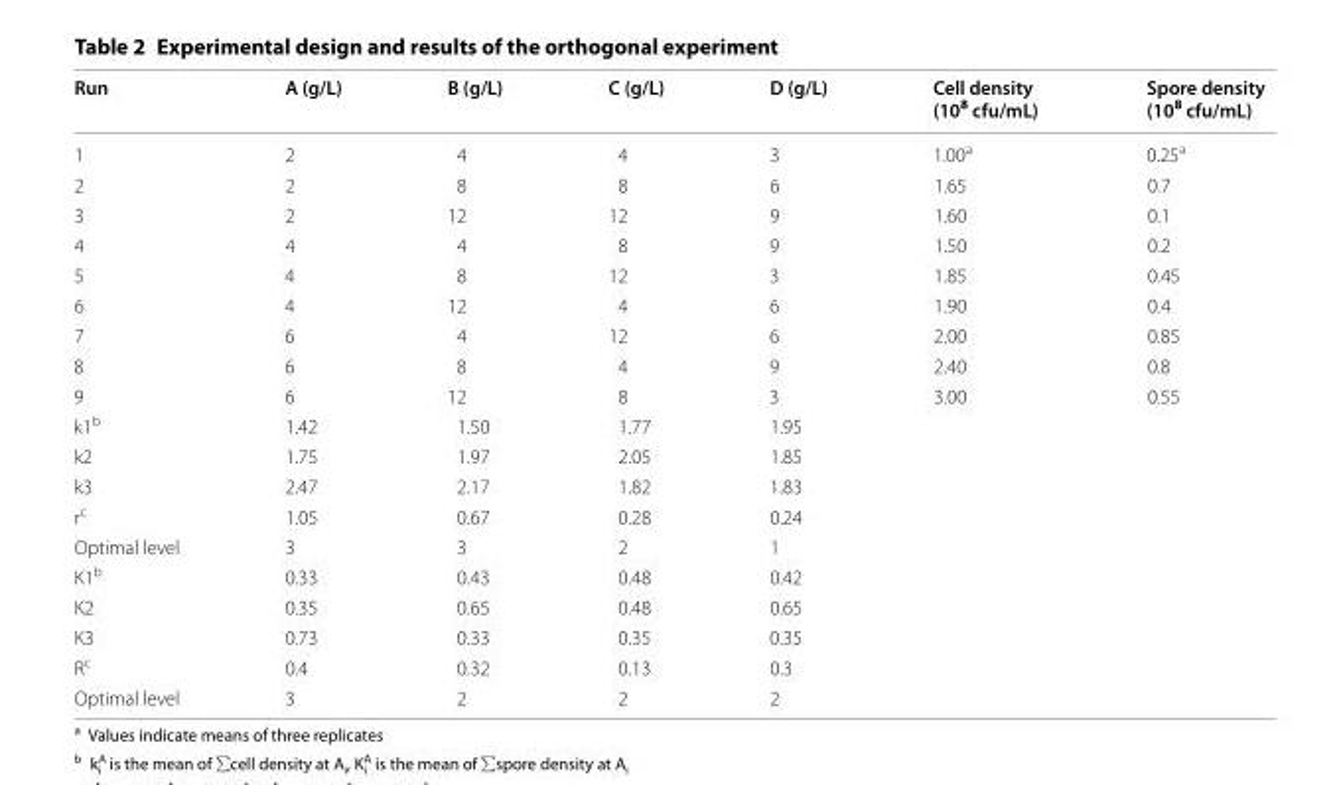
<table><thead><tr><td>Run</td><td>A (g/L)</td><td>B (g/L)</td><td>C (g/L)</td><td>D (g/L)</td><td>Cell density (10<sup>8</sup> cfu/mL)</td><td>Spore density (10<sup>8</sup> cfu/mL)</td></tr></thead><tbody><tr><td>1</td><td>2</td><td>4</td><td>4</td><td>3</td><td>1.00<sup>a</sup></td><td>0.25<sup>a</sup></td></tr><tr><td>2</td><td>2</td><td>8</td><td>8</td><td>6</td><td>1.65</td><td>0.7</td></tr><tr><td>3</td><td>2</td><td>12</td><td>12</td><td>9</td><td>1.60</td><td>0.1</td></tr><tr><td>4</td><td>4</td><td>4</td><td>8</td><td>9</td><td>1.50</td><td>0.2</td></tr><tr><td>5</td><td>4</td><td>8</td><td>12</td><td>3</td><td>1.85</td><td>0.45</td></tr><tr><td>6</td><td>4</td><td>12</td><td>4</td><td>6</td><td>1.90</td><td>0.4</td></tr><tr><td>7</td><td>6</td><td>4</td><td>12</td><td>6</td><td>2.00</td><td>0.85</td></tr><tr><td>8</td><td>6</td><td>8</td><td>4</td><td>9</td><td>2.40</td><td>0.8</td></tr><tr><td>9</td><td>6</td><td>12</td><td>8</td><td>3</td><td>3.00</td><td>0.55</td></tr><tr><td>k1<sup>b</sup></td><td>1.42</td><td>1.50</td><td>1.77</td><td>1.95</td><td></td><td></td></tr><tr><td>k2</td><td>1.75</td><td>1.97</td><td>2.05</td><td>1.85</td><td></td><td></td></tr><tr><td>k3</td><td>2.47</td><td>2.17</td><td>1.82</td><td>1.83</td><td></td><td></td></tr><tr><td>r<sup>c</sup></td><td>1.05</td><td>0.67</td><td>0.28</td><td>0.24</td><td></td><td></td></tr><tr><td>Optimal level</td><td>3</td><td>3</td><td>2</td><td>1</td><td></td><td></td></tr><tr><td>K1<sup>b</sup></td><td>0.33</td><td>0.43</td><td>0.48</td><td>0.42</td><td></td><td></td></tr><tr><td>K2</td><td>0.35</td><td>0.65</td><td>0.48</td><td>0.65</td><td></td><td></td></tr><tr><td>K3</td><td>0.73</td><td>0.33</td><td>0.35</td><td>0.35</td><td></td><td></td></tr><tr><td>R<sup>c</sup></td><td>0.4</td><td>0.32</td><td>0.13</td><td>0.3</td><td></td><td></td></tr><tr><td>Optimal level</td><td>3</td><td>2</td><td>2</td><td>2</td><td></td><td></td></tr></tbody></table>